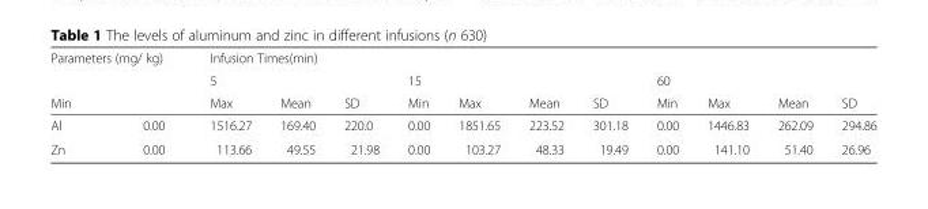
<table><thead><tr><td colspan="2">Parameters (mg/ kg)</td><td colspan="11">Infusion Times(min)</td></tr><tr><td></td><td></td><td colspan="3">5</td><td colspan="4">15</td><td colspan="4">60</td></tr><tr><td colspan="2">Min</td><td>Max</td><td>Mean</td><td>SD</td><td>Min</td><td>Max</td><td>Mean</td><td>SD</td><td>Min</td><td>Max</td><td>Mean</td><td>SD</td></tr></thead><tbody><tr><td>Al</td><td>0.00</td><td>1516.27</td><td>169.40</td><td>220.0</td><td>0.00</td><td>1851.65</td><td>223.52</td><td>301.18</td><td>0.00</td><td>1446.83</td><td>262.09</td><td>294.86</td></tr><tr><td>Zn</td><td>0.00</td><td>113.66</td><td>49.55</td><td>21.98</td><td>0.00</td><td>103.27</td><td>48.33</td><td>19.49</td><td>0.00</td><td>141.10</td><td>51.40</td><td>26.96</td></tr></tbody></table>